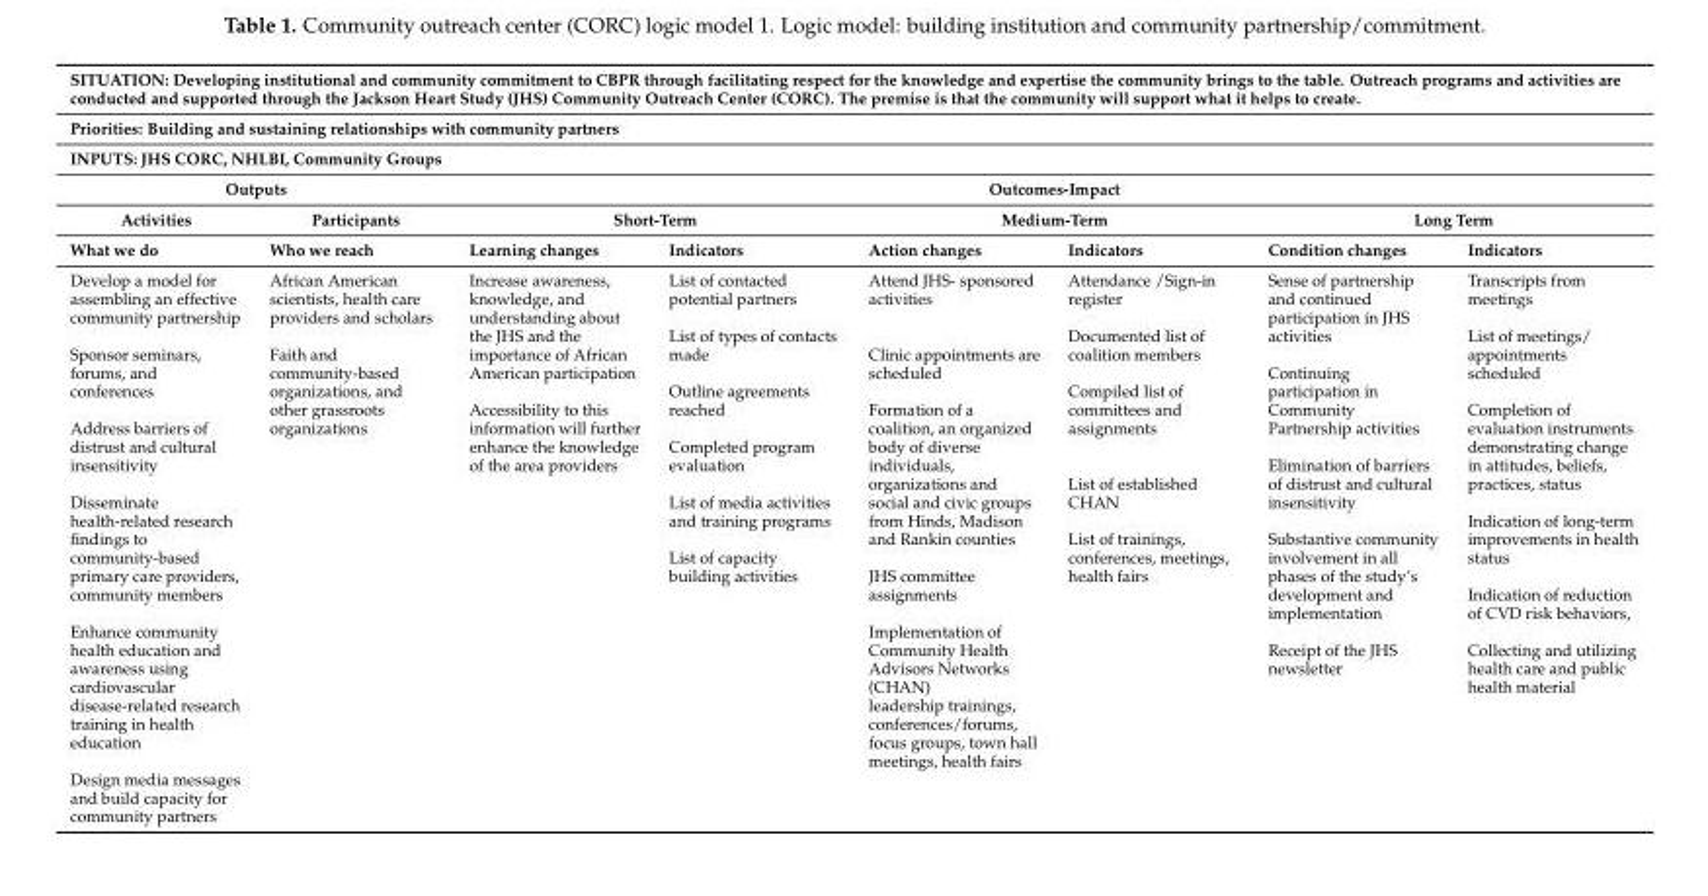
<table><thead><tr><td rowspan="3" colspan="8">SITUATION: Developing institutional and community commitment to CBPR through facilitating respect for the knowledge and expertise the community brings to the table. Outreach programs and activities are conducted and supported through the Jackson Heart Study (JHS) Community Outreach Center (CORC). The premise is that the community will support what it helps to create. Priorities: Building and sustaining relationships with community partners INPUTS: JHS CORC, NHLBI, Community Groups</td></tr><tr></tr><tr></tr><tr><td colspan="2">Outputs</td><td colspan="6">Outcomes-Impact</td></tr><tr><td rowspan="2">Activities What we do</td><td rowspan="2">Participants Who we reach</td><td colspan="2">Short-Term</td><td colspan="2">Medium-Term</td><td colspan="2">Long Term</td></tr><tr><td>Learning changes</td><td>Indicators</td><td>Action changes</td><td>Indicators</td><td>Condition changes</td><td>Indicators</td></tr></thead><tbody><tr><td>Develop a model for assembling an effective community partnership Sponsor seminars, forums, and conferences Address barriers of distrust and cultural insensitivity Disseminate health-related research findings to community-based primary care providers, community members Enhance community health education and awareness using cardiovascular disease-related research training in health education Design media messages and build capacity for community partners</td><td>African American scientists, health care providers and scholars Faith and community-based organizations, and other grassroots organizations</td><td>Increase awareness, knowledge, and understanding about the JHS and the importance of African American participation Accessibility to this information will further enhance the knowledge of the area providers</td><td>List of contacted potential partners List of types of contacts made Outline agreements reached Completed program evaluation List of media activities and training programs List of capacity building activities</td><td>Attend JHS- sponsored activities Clinic appointments are scheduled Formation of a coalition, an organized body of diverse individuals, organizations and social and civic groups from Hinds, Madison and Rankin counties JHS committee assignments Implementation of Community Health Advisors Networks (CHAN) leadership trainings, conferences/forums, focus groups, town hall meetings, health fairs</td><td>Attendance /Sign-in register Documented list of coalition members Compiled list of committees and assignments List of established CHAN List of trainings, conferences, meetings, health fairs</td><td>Sense of partnership and continued participation in JHS activities Continuing participation in Community Partnership activities Elimination of barriers of distrust and cultural insensitivity Substantive community involvement in all phases of the study’s development and implementation Receipt of the JHS newsletter</td><td>Transcripts from meetings List of meetings/ appointments scheduled Completion of evaluation instruments demonstrating change in attitudes, beliefs, practices, status Indication of long-term improvements in health status Indication of reduction of CVD risk behaviors, Collecting and utilizing health care and public health material</td></tr></tbody></table>